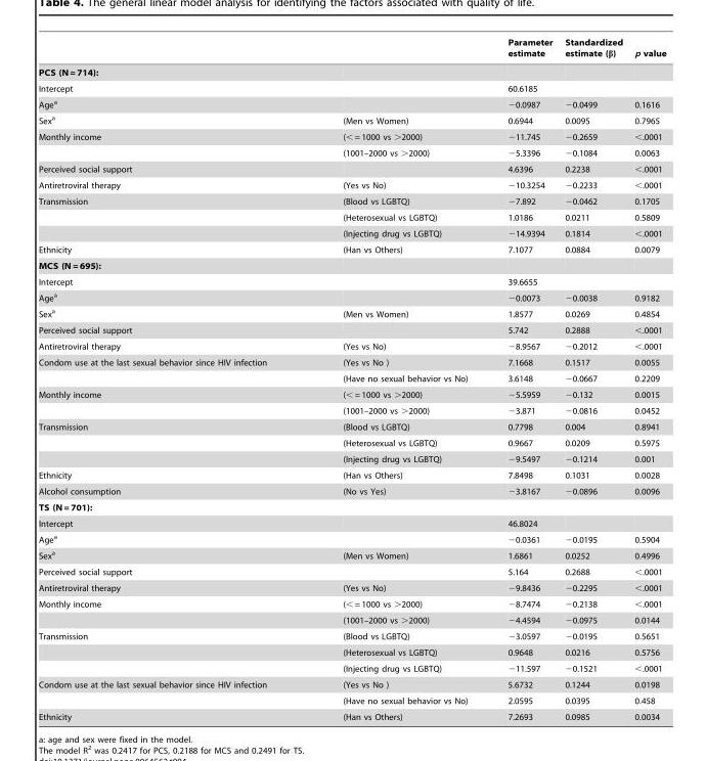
<table><thead><tr><td></td><td></td><td>Parameter estimate</td><td>Standardized estimate (β)</td><td>p value</td></tr></thead><tbody><tr><td colspan="5">PCS (N = 714):</td></tr><tr><td>Intercept</td><td></td><td>60.6185</td><td></td><td></td></tr><tr><td>Age<sup>a</sup></td><td></td><td>−0.0987</td><td>−0.0499</td><td>0.1616</td></tr><tr><td>Sex<sup>a</sup></td><td>(Men vs Women)</td><td>0.6944</td><td>0.0095</td><td>0.7965</td></tr><tr><td rowspan="2">Monthly income</td><td>(&lt; = 1000 vs &gt;2000)</td><td>−11.745</td><td>−0.2659</td><td>&lt;.0001</td></tr><tr><td>(1001–2000 vs &gt;2000)</td><td>−5.3396</td><td>−0.1084</td><td>0.0063</td></tr><tr><td>Perceived social support</td><td></td><td>4.6396</td><td>0.2238</td><td>&lt;.0001</td></tr><tr><td>Antiretroviral therapy</td><td>(Yes vs No)</td><td>−10.3254</td><td>−0.2233</td><td>&lt;.0001</td></tr><tr><td rowspan="3">Transmission</td><td>(Blood vs LGBTQ)</td><td>−7.892</td><td>−0.0462</td><td>0.1705</td></tr><tr><td>(Heterosexual vs LGBTQ)</td><td>1.0186</td><td>0.0211</td><td>0.5809</td></tr><tr><td>(Injecting drug vs LGBTQ)</td><td>−14.9394</td><td>0.1814</td><td>&lt;.0001</td></tr><tr><td>Ethnicity</td><td>(Han vs Others)</td><td>7.1077</td><td>0.0884</td><td>0.0079</td></tr><tr><td colspan="5">MCS (N = 695):</td></tr><tr><td>Intercept</td><td></td><td>39.6655</td><td></td><td></td></tr><tr><td>Age<sup>a</sup></td><td></td><td>−0.0073</td><td>−0.0038</td><td>0.9182</td></tr><tr><td>Sex<sup>a</sup></td><td>(Men vs Women)</td><td>1.8577</td><td>0.0269</td><td>0.4854</td></tr><tr><td>Perceived social support</td><td></td><td>5.742</td><td>0.2888</td><td>&lt;.0001</td></tr><tr><td>Antiretroviral therapy</td><td>(Yes vs No)</td><td>−8.9567</td><td>−0.2012</td><td>&lt;.0001</td></tr><tr><td rowspan="2">Condom use at the last sexual behavior since HIV infection</td><td>(Yes vs No )</td><td>7.1668</td><td>0.1517</td><td>0.0055</td></tr><tr><td>(Have no sexual behavior vs No)</td><td>3.6148</td><td>−0.0667</td><td>0.2209</td></tr><tr><td rowspan="2">Monthly income</td><td>(&lt; = 1000 vs &gt;2000)</td><td>−5.5959</td><td>−0.132</td><td>0.0015</td></tr><tr><td>(1001–2000 vs &gt;2000)</td><td>−3.871</td><td>−0.0816</td><td>0.0452</td></tr><tr><td rowspan="3">Transmission</td><td>(Blood vs LGBTQ)</td><td>0.7798</td><td>0.004</td><td>0.8941</td></tr><tr><td>(Heterosexual vs LGBTQ)</td><td>0.9667</td><td>0.0209</td><td>0.5975</td></tr><tr><td>(Injecting drug vs LGBTQ)</td><td>−9.5497</td><td>−0.1214</td><td>0.001</td></tr><tr><td>Ethnicity</td><td>(Han vs Others)</td><td>7.8498</td><td>0.1031</td><td>0.0028</td></tr><tr><td>Alcohol consumption</td><td>(No vs Yes)</td><td>−3.8167</td><td>−0.0896</td><td>0.0096</td></tr><tr><td colspan="5">TS (N = 701):</td></tr><tr><td>Intercept</td><td></td><td>46.8024</td><td></td><td></td></tr><tr><td>Age<sup>a</sup></td><td></td><td>−0.0361</td><td>−0.0195</td><td>0.5904</td></tr><tr><td>Sex<sup>a</sup></td><td>(Men vs Women)</td><td>1.6861</td><td>0.0252</td><td>0.4996</td></tr><tr><td>Perceived social support</td><td></td><td>5.164</td><td>0.2688</td><td>&lt;.0001</td></tr><tr><td>Antiretroviral therapy</td><td>(Yes vs No)</td><td>−9.8436</td><td>−0.2295</td><td>&lt;.0001</td></tr><tr><td rowspan="2">Monthly income</td><td>(&lt; = 1000 vs &gt;2000)</td><td>−8.7474</td><td>−0.2138</td><td>&lt;.0001</td></tr><tr><td>(1001–2000 vs &gt;2000)</td><td>−4.4594</td><td>−0.0975</td><td>0.0144</td></tr><tr><td rowspan="3">Transmission</td><td>(Blood vs LGBTQ)</td><td>−3.0597</td><td>−0.0195</td><td>0.5651</td></tr><tr><td>(Heterosexual vs LGBTQ)</td><td>0.9648</td><td>0.0216</td><td>0.5756</td></tr><tr><td>(Injecting drug vs LGBTQ)</td><td>−11.597</td><td>−0.1521</td><td>&lt;.0001</td></tr><tr><td rowspan="2">Condom use at the last sexual behavior since HIV infection</td><td>(Yes vs No )</td><td>5.6732</td><td>0.1244</td><td>0.0198</td></tr><tr><td>(Have no sexual behavior vs No)</td><td>2.0595</td><td>0.0395</td><td>0.458</td></tr><tr><td>Ethnicity</td><td>(Han vs Others)</td><td>7.2693</td><td>0.0985</td><td>0.0034</td></tr></tbody></table>